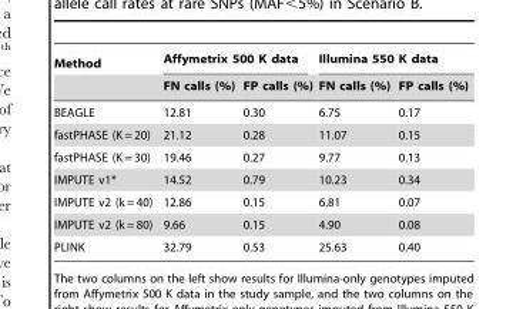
<table><thead><tr><td rowspan="2">Method</td><td colspan="2">Affymetrix 500 K data</td><td colspan="2">Illumina 550 K data</td></tr><tr><td>FN calls (%)</td><td>FP calls (%)</td><td>FN calls (%)</td><td>FP calls (%)</td></tr></thead><tbody><tr><td>BEAGLE</td><td>12.81</td><td>0.30</td><td>6.75</td><td>0.17</td></tr><tr><td>fastPHASE (K = 20)</td><td>21.12</td><td>0.28</td><td>11.07</td><td>0.15</td></tr><tr><td>fastPHASE (K = 30)</td><td>19.46</td><td>0.27</td><td>9.77</td><td>0.13</td></tr><tr><td>IMPUTE v1*</td><td>14.52</td><td>0.79</td><td>10.23</td><td>0.34</td></tr><tr><td>IMPUTE v2 (k = 40)</td><td>12.86</td><td>0.15</td><td>6.81</td><td>0.07</td></tr><tr><td>IMPUTE v2 (k = 80)</td><td>9.66</td><td>0.15</td><td>4.90</td><td>0.08</td></tr><tr><td>PLINK</td><td>32.79</td><td>0.53</td><td>25.63</td><td>0.40</td></tr></tbody></table>